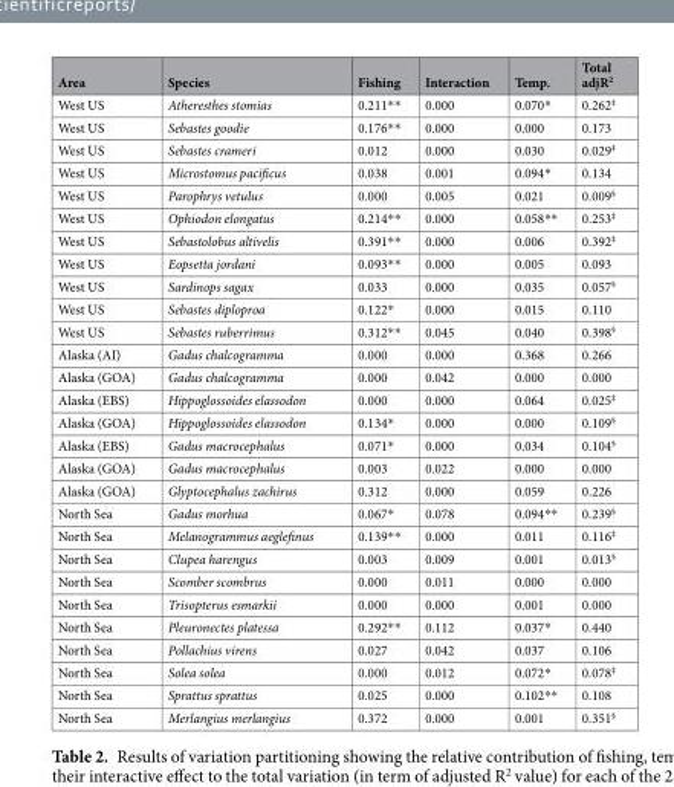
<table><thead><tr><td>Area</td><td>Species</td><td>Fishing</td><td>Interaction</td><td>Temp.</td><td>Total adjR<sup>2</sup></td></tr></thead><tbody><tr><td>West US</td><td>Atheresthes stomias</td><td>0.211**</td><td>0.000</td><td>0.070*</td><td>0.262<sup>‡</sup></td></tr><tr><td>West US</td><td>Sebastes goodie</td><td>0.176**</td><td>0.000</td><td>0.000</td><td>0.173</td></tr><tr><td>West US</td><td>Sebastes crameri</td><td>0.012</td><td>0.000</td><td>0.030</td><td>0.029<sup>‡</sup></td></tr><tr><td>West US</td><td>Microstomus pacificus</td><td>0.038</td><td>0.001</td><td>0.094*</td><td>0.134</td></tr><tr><td>West US</td><td>Parophrys vetulus</td><td>0.000</td><td>0.005</td><td>0.021</td><td>0.009<sup>§</sup></td></tr><tr><td>West US</td><td>Ophiodon elongatus</td><td>0.214**</td><td>0.000</td><td>0.058**</td><td>0.253<sup>‡</sup></td></tr><tr><td>West US</td><td>Sebastolobus altivelis</td><td>0.391**</td><td>0.000</td><td>0.006</td><td>0.392<sup>‡</sup></td></tr><tr><td>West US</td><td>Eopsetta jordani</td><td>0.093**</td><td>0.000</td><td>0.005</td><td>0.093</td></tr><tr><td>West US</td><td>Sardinops sagax</td><td>0.033</td><td>0.000</td><td>0.035</td><td>0.057<sup>§</sup></td></tr><tr><td>West US</td><td>Sebastes diploproa</td><td>0.122*</td><td>0.000</td><td>0.015</td><td>0.110</td></tr><tr><td>West US</td><td>Sebastes ruberrimus</td><td>0.312**</td><td>0.045</td><td>0.040</td><td>0.398<sup>§</sup></td></tr><tr><td>Alaska (AI)</td><td>Gadus chalcogramma</td><td>0.000</td><td>0.000</td><td>0.368</td><td>0.266</td></tr><tr><td>Alaska (GOA)</td><td>Gadus chalcogramma</td><td>0.000</td><td>0.042</td><td>0.000</td><td>0.000</td></tr><tr><td>Alaska (EBS)</td><td>Hippoglossoides elassodon</td><td>0.000</td><td>0.000</td><td>0.064</td><td>0.025<sup>‡</sup></td></tr><tr><td>Alaska (GOA)</td><td>Hippoglossoides elassodon</td><td>0.134*</td><td>0.000</td><td>0.000</td><td>0.109<sup>§</sup></td></tr><tr><td>Alaska (EBS)</td><td>Gadus macrocephalus</td><td>0.071*</td><td>0.000</td><td>0.034</td><td>0.104<sup>§</sup></td></tr><tr><td>Alaska (GOA)</td><td>Gadus macrocephalus</td><td>0.003</td><td>0.022</td><td>0.000</td><td>0.000</td></tr><tr><td>Alaska (GOA)</td><td>Glyptocephalus zachirus</td><td>0.312</td><td>0.000</td><td>0.059</td><td>0.226</td></tr><tr><td>North Sea</td><td>Gadus morhua</td><td>0.067*</td><td>0.078</td><td>0.094**</td><td>0.239<sup>§</sup></td></tr><tr><td>North Sea</td><td>Melanogrammus aeglefinus</td><td>0.139**</td><td>0.000</td><td>0.011</td><td>0.116<sup>‡</sup></td></tr><tr><td>North Sea</td><td>Clupea harengus</td><td>0.003</td><td>0.009</td><td>0.001</td><td>0.013<sup>§</sup></td></tr><tr><td>North Sea</td><td>Scomber scombrus</td><td>0.000</td><td>0.011</td><td>0.000</td><td>0.000</td></tr><tr><td>North Sea</td><td>Trisopterus esmarkii</td><td>0.000</td><td>0.000</td><td>0.001</td><td>0.000</td></tr><tr><td>North Sea</td><td>Pleuronectes platessa</td><td>0.292**</td><td>0.112</td><td>0.037*</td><td>0.440</td></tr><tr><td>North Sea</td><td>Pollachius virens</td><td>0.027</td><td>0.042</td><td>0.037</td><td>0.106</td></tr><tr><td>North Sea</td><td>Solea solea</td><td>0.000</td><td>0.012</td><td>0.072*</td><td>0.078<sup>‡</sup></td></tr><tr><td>North Sea</td><td>Sprattus sprattus</td><td>0.025</td><td>0.000</td><td>0.102**</td><td>0.108</td></tr><tr><td>North Sea</td><td>Merlangius merlangius</td><td>0.372</td><td>0.000</td><td>0.001</td><td>0.351<sup>§</sup></td></tr></tbody></table>